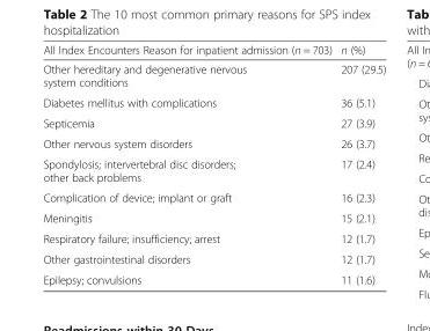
<table><thead><tr><td>All Index Encounters Reason for inpatient admission (n = 703)</td><td>n (%)</td></tr></thead><tbody><tr><td>Other hereditary and degenerative nervous system conditions</td><td>207 (29.5)</td></tr><tr><td>Diabetes mellitus with complications</td><td>36 (5.1)</td></tr><tr><td>Septicemia</td><td>27 (3.9)</td></tr><tr><td>Other nervous system disorders</td><td>26 (3.7)</td></tr><tr><td>Spondylosis; intervertebral disc disorders; other back problems</td><td>17 (2.4)</td></tr><tr><td>Complication of device; implant or graft</td><td>16 (2.3)</td></tr><tr><td>Meningitis</td><td>15 (2.1)</td></tr><tr><td>Respiratory failure; insufficiency; arrest</td><td>12 (1.7)</td></tr><tr><td>Other gastrointestinal disorders</td><td>12 (1.7)</td></tr><tr><td>Epilepsy; convulsions</td><td>11 (1.6)</td></tr></tbody></table>